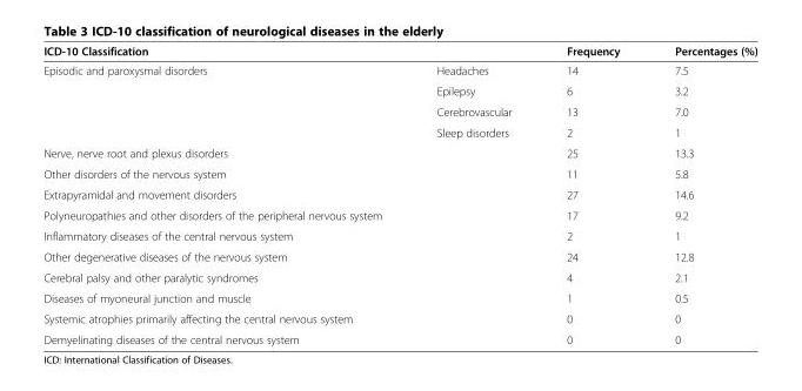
<table><thead><tr><td>ICD-10 Classification</td><td></td><td>Frequency</td><td>Percentages (%)</td></tr></thead><tbody><tr><td rowspan="4">Episodic and paroxysmal disorders</td><td>Headaches</td><td>14</td><td>7.5</td></tr><tr><td>Epilepsy</td><td>6</td><td>3.2</td></tr><tr><td>Cerebrovascular</td><td>13</td><td>7.0</td></tr><tr><td>Sleep disorders</td><td>2</td><td>1</td></tr><tr><td>Nerve, nerve root and plexus disorders</td><td></td><td>25</td><td>13.3</td></tr><tr><td>Other disorders of the nervous system</td><td></td><td>11</td><td>5.8</td></tr><tr><td>Extrapyramidal and movement disorders</td><td></td><td>27</td><td>14.6</td></tr><tr><td>Polyneuropathies and other disorders of the peripheral nervous system</td><td></td><td>17</td><td>9.2</td></tr><tr><td>Inflammatory diseases of the central nervous system</td><td></td><td>2</td><td>1</td></tr><tr><td>Other degenerative diseases of the nervous system</td><td></td><td>24</td><td>12.8</td></tr><tr><td>Cerebral palsy and other paralytic syndromes</td><td></td><td>4</td><td>2.1</td></tr><tr><td>Diseases of myoneural junction and muscle</td><td></td><td>1</td><td>0.5</td></tr><tr><td>Systemic atrophies primarily affecting the central nervous system</td><td></td><td>0</td><td>0</td></tr><tr><td>Demyelinating diseases of the central nervous system</td><td></td><td>0</td><td>0</td></tr></tbody></table>